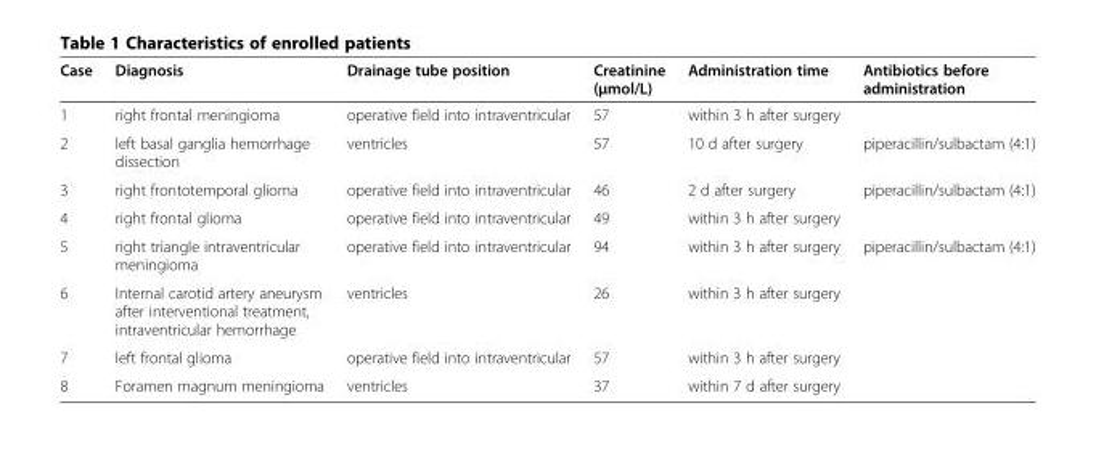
<table><thead><tr><td>Case</td><td>Diagnosis</td><td>Drainage tube position</td><td>Creatinine (μmol/L)</td><td>Administration time</td><td>Antibiotics before administration</td></tr></thead><tbody><tr><td>1</td><td>right frontal meningioma</td><td>operative field into intraventricular</td><td>57</td><td>within 3 h after surgery</td><td></td></tr><tr><td>2</td><td>left basal ganglia hemorrhage dissection</td><td>ventricles</td><td>57</td><td>10 d after surgery</td><td>piperacillin/sulbactam (4:1)</td></tr><tr><td>3</td><td>right frontotemporal glioma</td><td>operative field into intraventricular</td><td>46</td><td>2 d after surgery</td><td>piperacillin/sulbactam (4:1)</td></tr><tr><td>4</td><td>right frontal glioma</td><td>operative field into intraventricular</td><td>49</td><td>within 3 h after surgery</td><td></td></tr><tr><td>5</td><td>right triangle intraventricular meningioma</td><td>operative field into intraventricular</td><td>94</td><td>within 3 h after surgery</td><td>piperacillin/sulbactam (4:1)</td></tr><tr><td>6</td><td>Internal carotid artery aneurysm after interventional treatment, intraventricular hemorrhage</td><td>ventricles</td><td>26</td><td>within 3 h after surgery</td><td></td></tr><tr><td>7</td><td>left frontal glioma</td><td>operative field into intraventricular</td><td>57</td><td>within 3 h after surgery</td><td></td></tr><tr><td>8</td><td>Foramen magnum meningioma</td><td>ventricles</td><td>37</td><td>within 7 d after surgery</td><td></td></tr></tbody></table>